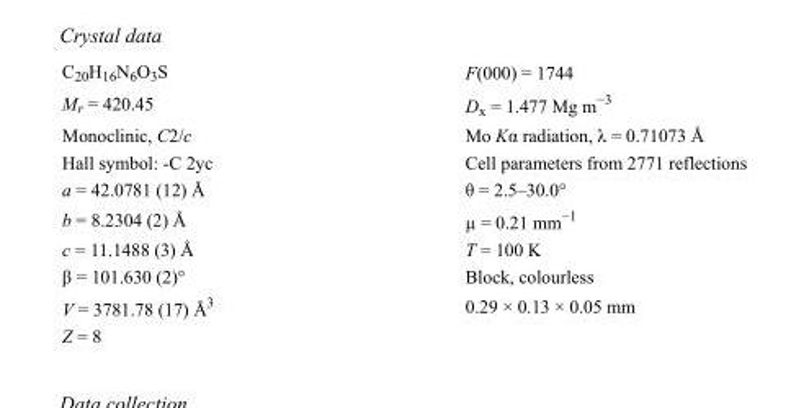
<table><tbody><tr><td>C<sub>20</sub>H<sub>16</sub>N<sub>6</sub>O<sub>3</sub>S</td><td>F(000) = 1744</td></tr><tr><td>M<sub>r</sub> = 420.45</td><td>D<sub>x</sub> = 1.477 Mg m<sup>−3</sup></td></tr><tr><td>Monoclinic, C2/c</td><td>Mo Kα radiation, λ = 0.71073 Å</td></tr><tr><td>Hall symbol: -C 2yc</td><td>Cell parameters from 2771 reflections</td></tr><tr><td>a = 42.0781 (12) Å</td><td>θ = 2.5–30.0°</td></tr><tr><td>b = 8.2304 (2) Å</td><td>µ = 0.21 mm<sup>−1</sup></td></tr><tr><td>c = 11.1488 (3) Å</td><td>T = 100 K</td></tr><tr><td>β = 101.630 (2)°</td><td>Block, colourless</td></tr><tr><td>V = 3781.78 (17) Å<sup>3</sup></td><td>0.29 × 0.13 × 0.05 mm</td></tr><tr><td>Z = 8</td><td></td></tr></tbody></table>